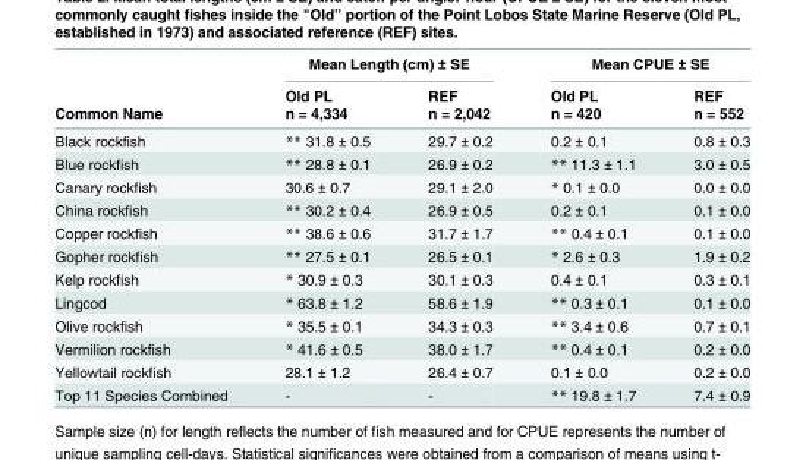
<table><thead><tr><td rowspan="3">Common Name</td><td colspan="2">Mean Length (cm) ± SE</td><td colspan="2">Mean CPUE ± SE</td></tr><tr><td rowspan="2">Old PL n = 4,334</td><td rowspan="2">REF n = 2,042</td><td rowspan="2">Old PL n = 420</td><td rowspan="2">REF n = 552</td></tr><tr></tr></thead><tbody><tr><td>Black rockfish</td><td>** 31.8 ± 0.5</td><td>29.7 ± 0.2</td><td>0.2 ± 0.1</td><td>0.8 ± 0.3</td></tr><tr><td>Blue rockfish</td><td>** 28.8 ± 0.1</td><td>26.9 ± 0.2</td><td>** 11.3 ± 1.1</td><td>3.0 ± 0.5</td></tr><tr><td>Canary rockfish</td><td>30.6 ± 0.7</td><td>29.1 ± 2.0</td><td>* 0.1 ± 0.0</td><td>0.0 ± 0.0</td></tr><tr><td>China rockfish</td><td>** 30.2 ± 0.4</td><td>26.9 ± 0.5</td><td>0.2 ± 0.1</td><td>0.1 ± 0.0</td></tr><tr><td>Copper rockfish</td><td>** 38.6 ± 0.6</td><td>31.7 ± 1.7</td><td>** 0.4 ± 0.1</td><td>0.1 ± 0.0</td></tr><tr><td>Gopher rockfish</td><td>** 27.5 ± 0.1</td><td>26.5 ± 0.1</td><td>* 2.6 ± 0.3</td><td>1.9 ± 0.2</td></tr><tr><td>Kelp rockfish</td><td>* 30.9 ± 0.3</td><td>30.1 ± 0.3</td><td>0.4 ± 0.1</td><td>0.3 ± 0.1</td></tr><tr><td>Lingcod</td><td>* 63.8 ± 1.2</td><td>58.6 ± 1.9</td><td>** 0.3 ± 0.1</td><td>0.1 ± 0.0</td></tr><tr><td>Olive rockfish</td><td>* 35.5 ± 0.1</td><td>34.3 ± 0.3</td><td>** 3.4 ± 0.6</td><td>0.7 ± 0.1</td></tr><tr><td>Vermilion rockfish</td><td>* 41.6 ± 0.5</td><td>38.0 ± 1.7</td><td>** 0.4 ± 0.1</td><td>0.2 ± 0.0</td></tr><tr><td>Yellowtail rockfish</td><td>28.1 ± 1.2</td><td>26.4 ± 0.7</td><td>0.1 ± 0.0</td><td>0.2 ± 0.0</td></tr><tr><td>Top 11 Species Combined</td><td>-</td><td>-</td><td>** 19.8 ± 1.7</td><td>7.4 ± 0.9</td></tr></tbody></table>